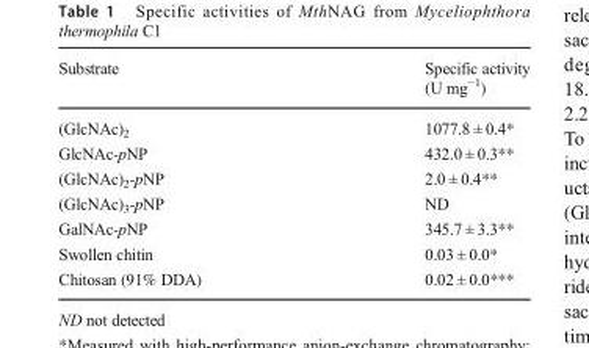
<table><thead><tr><td>Substrate</td><td>Specific activity (U mg<sup>−1</sup>)</td></tr></thead><tbody><tr><td>(GlcNAc)<sub>2</sub></td><td>1077.8 ± 0.4*</td></tr><tr><td>GlcNAc-pNP</td><td>432.0 ± 0.3**</td></tr><tr><td>(GlcNAc)<sub>2</sub>-pNP</td><td>2.0 ± 0.4**</td></tr><tr><td>(GlcNAc)<sub>3</sub>-pNP</td><td>ND</td></tr><tr><td>GalNAc-pNP</td><td>345.7 ± 3.3**</td></tr><tr><td>Swollen chitin</td><td>0.03 ± 0.0*</td></tr><tr><td>Chitosan (91% DDA)</td><td>0.02 ± 0.0***</td></tr></tbody></table>